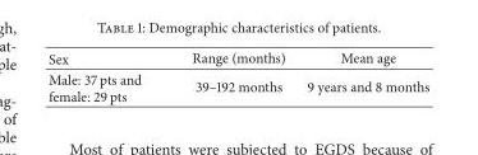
<table><thead><tr><td>Sex</td><td>Range (months)</td><td>Mean age</td></tr></thead><tbody><tr><td>Male: 37 pts and female: 29 pts</td><td>39–192 months</td><td>9 years and 8 months</td></tr></tbody></table>